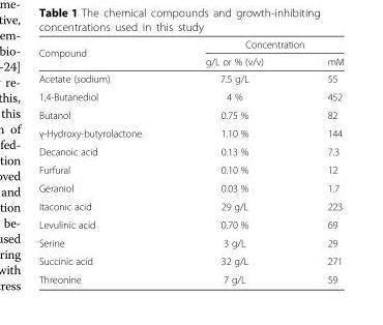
<table><thead><tr><td rowspan="2">Compound</td><td colspan="2">Concentration</td></tr><tr><td>g/L or % (v/v)</td><td>mM</td></tr></thead><tbody><tr><td>Acetate (sodium)</td><td>7.5 g/L</td><td>55</td></tr><tr><td>1,4-Butanediol</td><td>4 %</td><td>452</td></tr><tr><td>Butanol</td><td>0.75 %</td><td>82</td></tr><tr><td>γ-Hydroxy-butyrolactone</td><td>1.10 %</td><td>144</td></tr><tr><td>Decanoic acid</td><td>0.13 %</td><td>7.3</td></tr><tr><td>Furfural</td><td>0.10 %</td><td>12</td></tr><tr><td>Geraniol</td><td>0.03 %</td><td>1.7</td></tr><tr><td>Itaconic acid</td><td>29 g/L</td><td>223</td></tr><tr><td>Levulinic acid</td><td>0.70 %</td><td>69</td></tr><tr><td>Serine</td><td>3 g/L</td><td>29</td></tr><tr><td>Succinic acid</td><td>32 g/L</td><td>271</td></tr><tr><td>Threonine</td><td>7 g/L</td><td>59</td></tr></tbody></table>